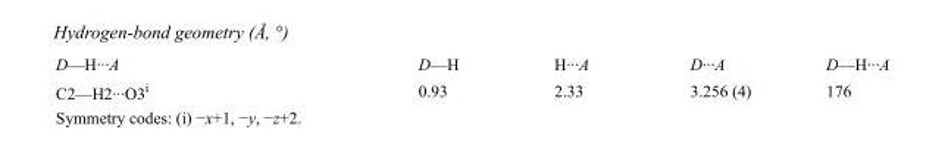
<table><tbody><tr><td>D—H···A</td><td>D—H</td><td>H···A</td><td>D···A</td><td>D—H···A</td></tr><tr><td>C2—H2···O3<sup>i</sup></td><td>0.93</td><td>2.33</td><td>3.256 (4)</td><td>176</td></tr></tbody></table>